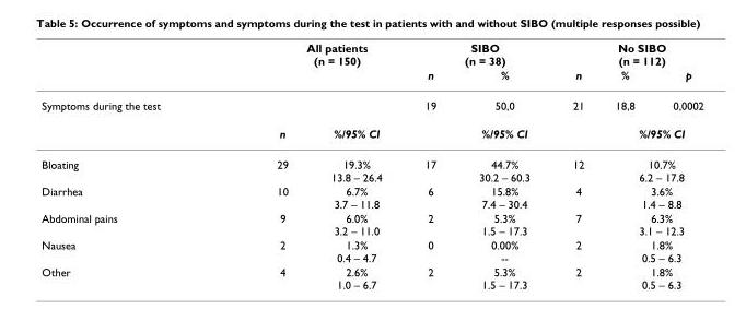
<table><thead><tr><td rowspan="2"></td><td colspan="2">All patients (n = 150)</td><td colspan="2">SIBO (n = 38)</td><td colspan="3">No SIBO (n = 112)</td></tr><tr><td></td><td></td><td>n</td><td>%</td><td>n</td><td>%</td><td>p</td></tr></thead><tbody><tr><td rowspan="2">Symptoms during the test</td><td></td><td></td><td>19</td><td>50,0</td><td>21</td><td>18,8</td><td>0,0002</td></tr><tr><td>n</td><td>%/95% CI</td><td></td><td>%/95% CI</td><td></td><td colspan="2">%/95% CI</td></tr><tr><td>Bloating</td><td>29</td><td>19.3% 13.8 – 26.4</td><td>17</td><td>44.7% 30.2 – 60.3</td><td>12</td><td colspan="2">10.7% 6.2 – 17.8</td></tr><tr><td>Diarrhea</td><td>10</td><td>6.7% 3.7 – 11.8</td><td>6</td><td>15.8% 7.4 – 30.4</td><td>4</td><td colspan="2">3.6% 1.4 – 8.8</td></tr><tr><td>Abdominal pains</td><td>9</td><td>6.0% 3.2 – 11.0</td><td>2</td><td>5.3% 1.5 – 17.3</td><td>7</td><td colspan="2">6.3% 3.1 – 12.3</td></tr><tr><td>Nausea</td><td>2</td><td>1.3% 0.4 – 4.7</td><td>0</td><td>0.00% --</td><td>2</td><td colspan="2">1.8% 0.5 – 6.3</td></tr><tr><td>Other</td><td>4</td><td>2.6% 1.0 – 6.7</td><td>2</td><td>5.3% 1.5 – 17.3</td><td>2</td><td colspan="2">1.8% 0.5 – 6.3</td></tr></tbody></table>